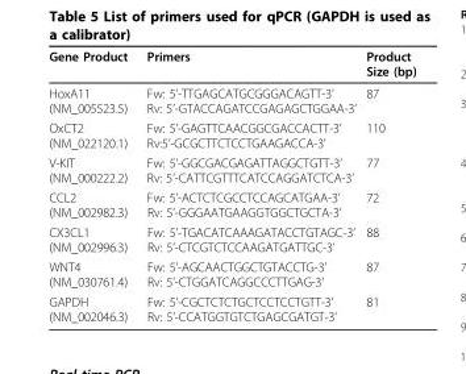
<table><thead><tr><td>Gene Product</td><td>Primers</td><td>Product Size (bp)</td></tr></thead><tbody><tr><td>HoxA11 (NM_005523.5)</td><td>Fw: 5’-TTGAGCATGCGGGACAGTT-3’ Rv: 5’-GTACCAGATCCGAGAGCTGGAA-3’</td><td>87</td></tr><tr><td>OxCT2 (NM_022120.1)</td><td>Fw: 5’-GAGTTCAACGGCGACCACTT-3’ Rv:5’-GCGCTTCTCCTGAAGACCA-3’</td><td>110</td></tr><tr><td>V-KIT (NM_000222.2)</td><td>Fw: 5’-GGCGACGAGATTAGGCTGTT-3’ Rv: 5’-CATTCGTTTCATCCAGGATCTCA-3’</td><td>77</td></tr><tr><td>CCL2 (NM_002982.3)</td><td>Fw: 5’-ACTCTCGCCTCCAGCATGAA-3’ Rv: 5’-GGGAATGAAGGTGGCTGCTA-3’</td><td>72</td></tr><tr><td>CX3CL1 (NM_002996.3)</td><td>Fw: 5’-TGACATCAAAGATACCTGTAGC-3’ Rv: 5’-CTCGTCTCCAAGATGATTGC-3’</td><td>88</td></tr><tr><td>WNT4 (NM_030761.4)</td><td>Fw: 5’-AGCAACTGGCTGTACCTG-3’ Rv: 5’-CTGGATCAGGCCCTTGAG-3’</td><td>87</td></tr><tr><td>GAPDH (NM_002046.3)</td><td>Fw: 5’-CGCTCTCTGCTCCTCCTGTT-3’ Rv: 5’-CCATGGTGTCTGAGCGATGT-3’</td><td>81</td></tr></tbody></table>